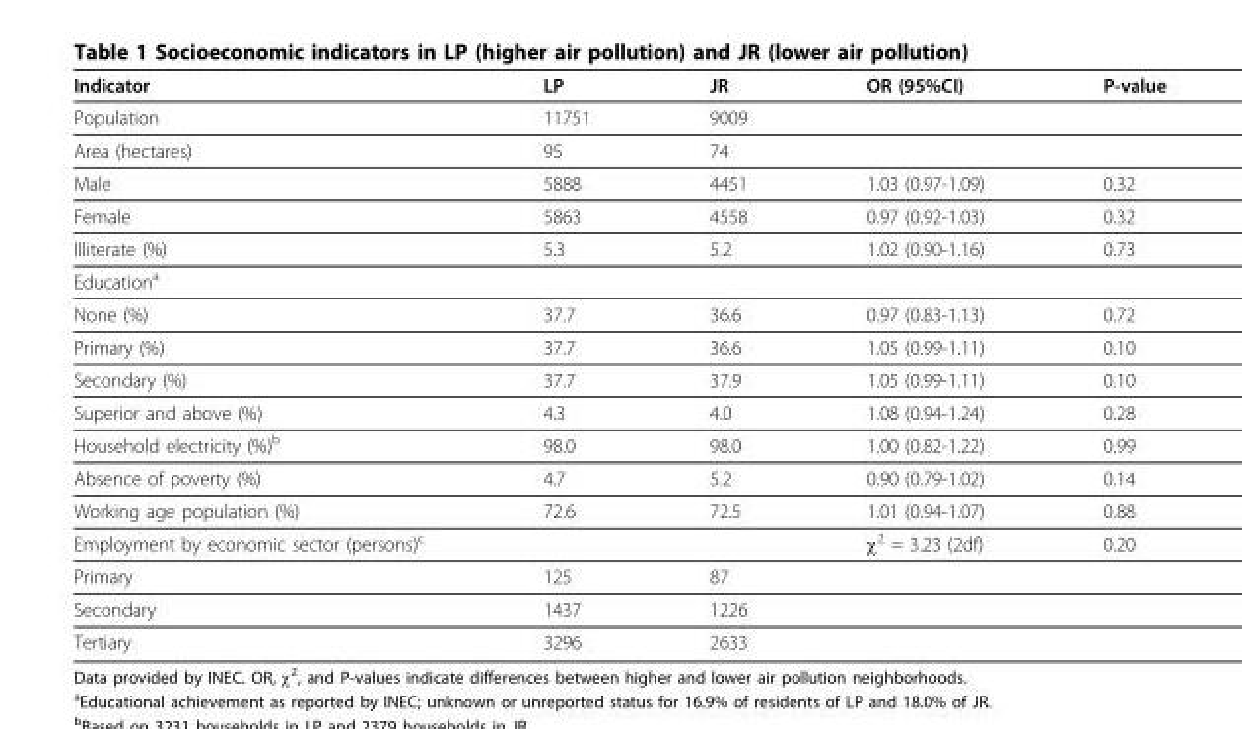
<table><thead><tr><td>Indicator</td><td>LP</td><td>JR</td><td>OR (95%CI)</td><td>P-value</td></tr></thead><tbody><tr><td>Population</td><td>11751</td><td>9009</td><td></td><td></td></tr><tr><td>Area (hectares)</td><td>95</td><td>74</td><td></td><td></td></tr><tr><td>Male</td><td>5888</td><td>4451</td><td>1.03 (0.97-1.09)</td><td>0.32</td></tr><tr><td>Female</td><td>5863</td><td>4558</td><td>0.97 (0.92-1.03)</td><td>0.32</td></tr><tr><td>Illiterate (%)</td><td>5.3</td><td>5.2</td><td>1.02 (0.90-1.16)</td><td>0.73</td></tr><tr><td colspan="5">Education<sup>a</sup></td></tr><tr><td>None (%)</td><td>37.7</td><td>36.6</td><td>0.97 (0.83-1.13)</td><td>0.72</td></tr><tr><td>Primary (%)</td><td>37.7</td><td>36.6</td><td>1.05 (0.99-1.11)</td><td>0.10</td></tr><tr><td>Secondary (%)</td><td>37.7</td><td>37.9</td><td>1.05 (0.99-1.11)</td><td>0.10</td></tr><tr><td>Superior and above (%)</td><td>4.3</td><td>4.0</td><td>1.08 (0.94-1.24)</td><td>0.28</td></tr><tr><td>Household electricity (%)<sup>b</sup></td><td>98.0</td><td>98.0</td><td>1.00 (0.82-1.22)</td><td>0.99</td></tr><tr><td>Absence of poverty (%)</td><td>4.7</td><td>5.2</td><td>0.90 (0.79-1.02)</td><td>0.14</td></tr><tr><td>Working age population (%)</td><td>72.6</td><td>72.5</td><td>1.01 (0.94-1.07)</td><td>0.88</td></tr><tr><td>Employment by economic sector (persons)<sup>c</sup></td><td></td><td></td><td>χ<sup>2</sup> = 3.23 (2df)</td><td>0.20</td></tr><tr><td>Primary</td><td>125</td><td>87</td><td></td><td></td></tr><tr><td>Secondary</td><td>1437</td><td>1226</td><td></td><td></td></tr><tr><td>Tertiary</td><td>3296</td><td>2633</td><td></td><td></td></tr></tbody></table>